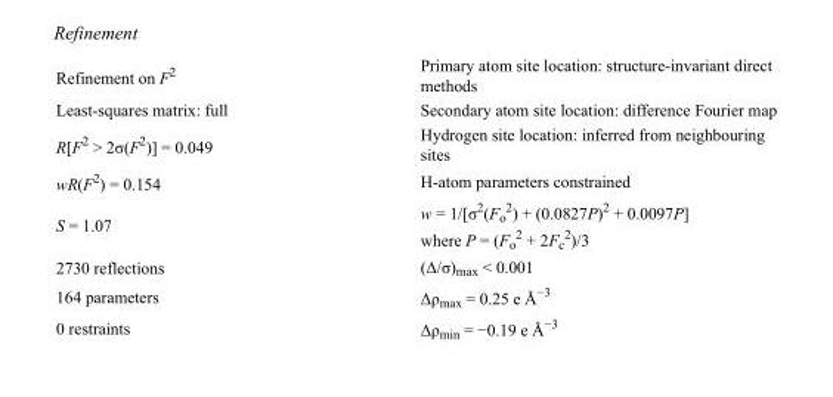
<table><tbody><tr><td>Refinement on F<sup>2</sup></td><td>Primary atom site location: structure-invariant direct methods</td></tr><tr><td>Least-squares matrix: full</td><td>Secondary atom site location: difference Fourier map</td></tr><tr><td>R[F<sup>2</sup> &gt; 2σ(F<sup>2</sup>)] = 0.049</td><td>Hydrogen site location: inferred from neighbouring sites</td></tr><tr><td>wR(F<sup>2</sup>) = 0.154</td><td>H-atom parameters constrained</td></tr><tr><td>S = 1.07</td><td>w = 1/[σ<sup>2</sup>(F<sub>o</sub> <sup>2</sup>) + (0.0827P)<sup>2</sup> + 0.0097P] where P = (F<sub>o</sub> <sup>2</sup> + 2F<sub>c</sub> <sup>2</sup>)/3</td></tr><tr><td>2730 reflections</td><td>(Δ/σ)<sub>max</sub> &lt; 0.001</td></tr><tr><td>164 parameters</td><td>Δρ<sub>max</sub> = 0.25 e Å<sup>−3</sup></td></tr><tr><td>0 restraints</td><td>Δρ<sub>min</sub> = −0.19 e Å<sup>−3</sup></td></tr></tbody></table>